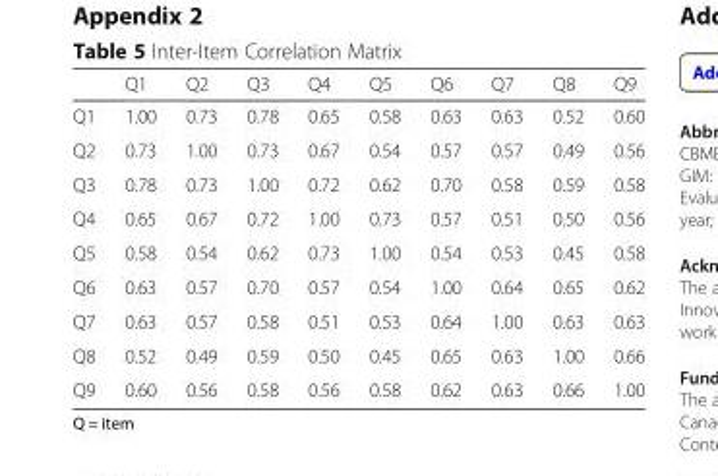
<table><thead><tr><td></td><td>Q1</td><td>Q2</td><td>Q3</td><td>Q4</td><td>Q5</td><td>Q6</td><td>Q7</td><td>Q8</td><td>Q9</td></tr></thead><tbody><tr><td>Q1</td><td>1.00</td><td>0.73</td><td>0.78</td><td>0.65</td><td>0.58</td><td>0.63</td><td>0.63</td><td>0.52</td><td>0.60</td></tr><tr><td>Q2</td><td>0.73</td><td>1.00</td><td>0.73</td><td>0.67</td><td>0.54</td><td>0.57</td><td>0.57</td><td>0.49</td><td>0.56</td></tr><tr><td>Q3</td><td>0.78</td><td>0.73</td><td>1.00</td><td>0.72</td><td>0.62</td><td>0.70</td><td>0.58</td><td>0.59</td><td>0.58</td></tr><tr><td>Q4</td><td>0.65</td><td>0.67</td><td>0.72</td><td>1.00</td><td>0.73</td><td>0.57</td><td>0.51</td><td>0.50</td><td>0.56</td></tr><tr><td>Q5</td><td>0.58</td><td>0.54</td><td>0.62</td><td>0.73</td><td>1.00</td><td>0.54</td><td>0.53</td><td>0.45</td><td>0.58</td></tr><tr><td>Q6</td><td>0.63</td><td>0.57</td><td>0.70</td><td>0.57</td><td>0.54</td><td>1.00</td><td>0.64</td><td>0.65</td><td>0.62</td></tr><tr><td>Q7</td><td>0.63</td><td>0.57</td><td>0.58</td><td>0.51</td><td>0.53</td><td>0.64</td><td>1.00</td><td>0.63</td><td>0.63</td></tr><tr><td>Q8</td><td>0.52</td><td>0.49</td><td>0.59</td><td>0.50</td><td>0.45</td><td>0.65</td><td>0.63</td><td>1.00</td><td>0.66</td></tr><tr><td>Q9</td><td>0.60</td><td>0.56</td><td>0.58</td><td>0.56</td><td>0.58</td><td>0.62</td><td>0.63</td><td>0.66</td><td>1.00</td></tr></tbody></table>